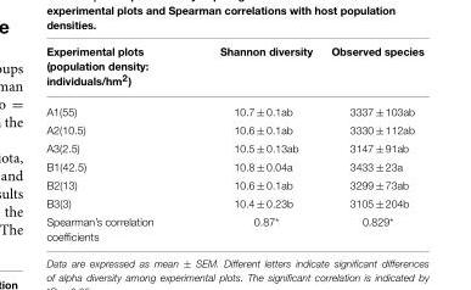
<table><thead><tr><td>Experimental plots (population density: individuals/hm<sup>2</sup>)</td><td>Shannon diversity</td><td>Observed species</td></tr></thead><tbody><tr><td>A1(55)</td><td>10.7 ± 0.1ab</td><td>3337 ± 103ab</td></tr><tr><td>A2(10.5)</td><td>10.6 ± 0.1ab</td><td>3330 ± 112ab</td></tr><tr><td>A3(2.5)</td><td>10.5 ± 0.13ab</td><td>3147 ± 91ab</td></tr><tr><td>B1(42.5)</td><td>10.8 ± 0.04a</td><td>3433 ± 23a</td></tr><tr><td>B2(13)</td><td>10.6 ± 0.1ab</td><td>3299 ± 73ab</td></tr><tr><td>B3(3)</td><td>10.4 ± 0.23b</td><td>3105 ± 204b</td></tr><tr><td>Spearman’s correlation coefficients</td><td>0.87*</td><td>0.829*</td></tr></tbody></table>